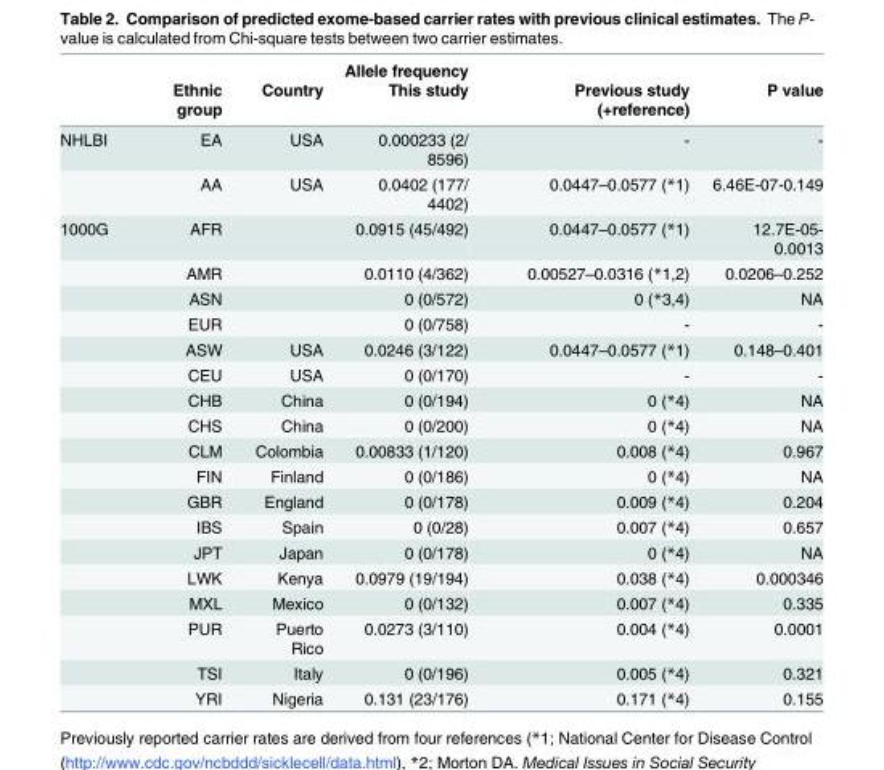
<table><thead><tr><td rowspan="2"></td><td rowspan="2">Ethnic group</td><td rowspan="2">Country</td><td rowspan="2">Allele frequency This study</td><td rowspan="2">Previous study (+reference)</td><td rowspan="2">P value</td></tr><tr></tr></thead><tbody><tr><td rowspan="2">NHLBI</td><td>EA</td><td>USA</td><td>0.000233 (2/ 8596)</td><td>-</td><td>-</td></tr><tr><td>AA</td><td>USA</td><td>0.0402 (177/ 4402)</td><td>0.0447–0.0577 (*1)</td><td>6.46E-07-0.149</td></tr><tr><td rowspan="18">1000G</td><td>AFR</td><td></td><td>0.0915 (45/492)</td><td>0.0447–0.0577 (*1)</td><td>12.7E-05- 0.0013</td></tr><tr><td>AMR</td><td></td><td>0.0110 (4/362)</td><td>0.00527–0.0316 (*1,2)</td><td>0.0206–0.252</td></tr><tr><td>ASN</td><td></td><td>0 (0/572)</td><td>0 (*3,4)</td><td>NA</td></tr><tr><td>EUR</td><td></td><td>0 (0/758)</td><td>-</td><td>-</td></tr><tr><td>ASW</td><td>USA</td><td>0.0246 (3/122)</td><td>0.0447–0.0577 (*1)</td><td>0.148–0.401</td></tr><tr><td>CEU</td><td>USA</td><td>0 (0/170)</td><td>-</td><td>-</td></tr><tr><td>CHB</td><td>China</td><td>0 (0/194)</td><td>0 (*4)</td><td>NA</td></tr><tr><td>CHS</td><td>China</td><td>0 (0/200)</td><td>0 (*4)</td><td>NA</td></tr><tr><td>CLM</td><td>Colombia</td><td>0.00833 (1/120)</td><td>0.008 (*4)</td><td>0.967</td></tr><tr><td>FIN</td><td>Finland</td><td>0 (0/186)</td><td>0 (*4)</td><td>NA</td></tr><tr><td>GBR</td><td>England</td><td>0 (0/178)</td><td>0.009 (*4)</td><td>0.204</td></tr><tr><td>IBS</td><td>Spain</td><td>0 (0/28)</td><td>0.007 (*4)</td><td>0.657</td></tr><tr><td>JPT</td><td>Japan</td><td>0 (0/178)</td><td>0 (*4)</td><td>NA</td></tr><tr><td>LWK</td><td>Kenya</td><td>0.0979 (19/194)</td><td>0.038 (*4)</td><td>0.000346</td></tr><tr><td>MXL</td><td>Mexico</td><td>0 (0/132)</td><td>0.007 (*4)</td><td>0.335</td></tr><tr><td>PUR</td><td>Puerto Rico</td><td>0.0273 (3/110)</td><td>0.004 (*4)</td><td>0.0001</td></tr><tr><td>TSI</td><td>Italy</td><td>0 (0/196)</td><td>0.005 (*4)</td><td>0.321</td></tr><tr><td>YRI</td><td>Nigeria</td><td>0.131 (23/176)</td><td>0.171 (*4)</td><td>0.155</td></tr></tbody></table>